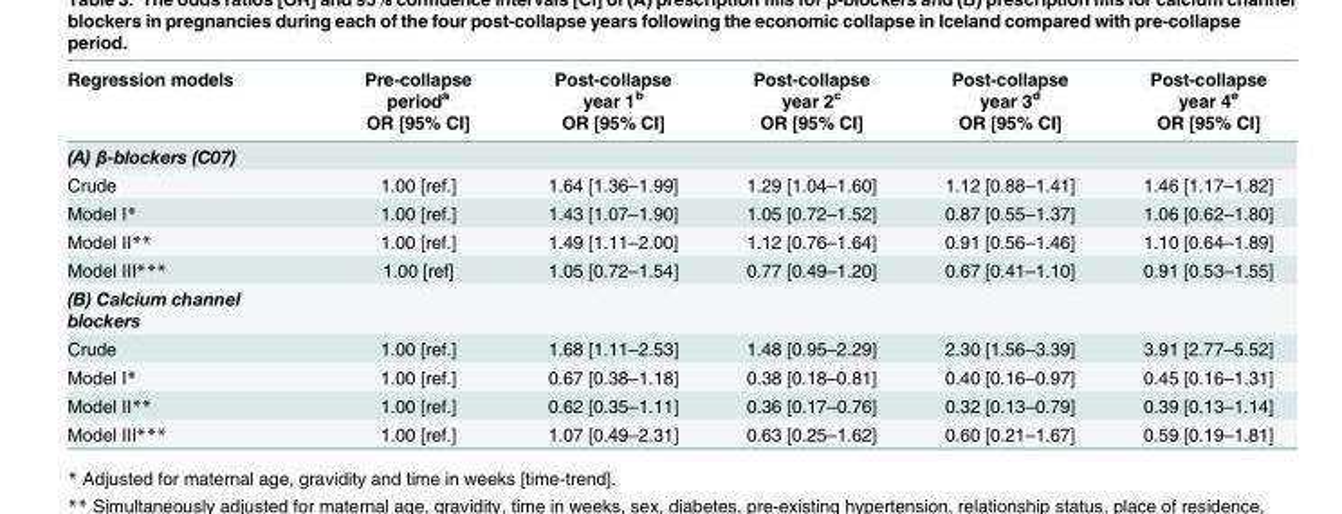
<table><thead><tr><td rowspan="2">Regression models</td><td rowspan="2">Pre-collapse period<sup>a</sup> OR [95% CI]</td><td rowspan="2">Post-collapse year 1<sup>b</sup> OR [95% CI]</td><td rowspan="2">Post-collapse year 2<sup>c</sup> OR [95% CI]</td><td rowspan="2">Post-collapse year 3<sup>d</sup> OR [95% CI]</td><td rowspan="2">Post-collapse year 4<sup>e</sup> OR [95% CI]</td></tr><tr></tr></thead><tbody><tr><td colspan="6">(A) β-blockers (C07)</td></tr><tr><td>Crude</td><td>1.00 [ref.]</td><td>1.64 [1.36–1.99]</td><td>1.29 [1.04–1.60]</td><td>1.12 [0.88–1.41]</td><td>1.46 [1.17–1.82]</td></tr><tr><td>Model I*</td><td>1.00 [ref.]</td><td>1.43 [1.07–1.90]</td><td>1.05 [0.72–1.52]</td><td>0.87 [0.55–1.37]</td><td>1.06 [0.62–1.80]</td></tr><tr><td>Model II**</td><td>1.00 [ref.]</td><td>1.49 [1.11–2.00]</td><td>1.12 [0.76–1.64]</td><td>0.91 [0.56–1.46]</td><td>1.10 [0.64–1.89]</td></tr><tr><td>Model III***</td><td>1.00 [ref]</td><td>1.05 [0.72–1.54]</td><td>0.77 [0.49–1.20]</td><td>0.67 [0.41–1.10]</td><td>0.91 [0.53–1.55]</td></tr><tr><td colspan="6">(B) Calcium channel blockers</td></tr><tr><td>Crude</td><td>1.00 [ref.]</td><td>1.68 [1.11–2.53]</td><td>1.48 [0.95–2.29]</td><td>2.30 [1.56–3.39]</td><td>3.91 [2.77–5.52]</td></tr><tr><td>Model I*</td><td>1.00 [ref.]</td><td>0.67 [0.38–1.18]</td><td>0.38 [0.18–0.81]</td><td>0.40 [0.16–0.97]</td><td>0.45 [0.16–1.31]</td></tr><tr><td>Model II**</td><td>1.00 [ref.]</td><td>0.62 [0.35–1.11]</td><td>0.36 [0.17–0.76]</td><td>0.32 [0.13–0.79]</td><td>0.39 [0.13–1.14]</td></tr><tr><td>Model III***</td><td>1.00 [ref.]</td><td>1.07 [0.49–2.31]</td><td>0.63 [0.25–1.62]</td><td>0.60 [0.21–1.67]</td><td>0.59 [0.19–1.81]</td></tr></tbody></table>